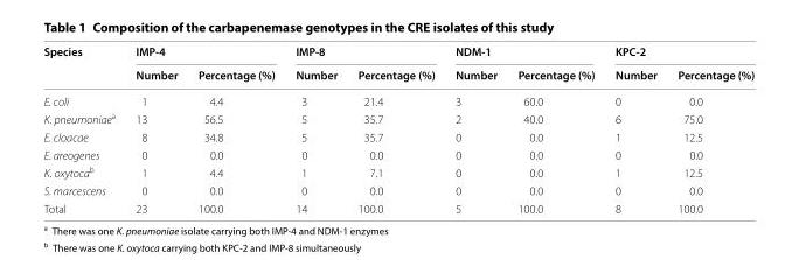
<table><thead><tr><td rowspan="2">Species</td><td colspan="2">IMP-4</td><td colspan="2">IMP-8</td><td colspan="2">NDM-1</td><td colspan="2">KPC-2</td></tr><tr><td>Number</td><td>Percentage (%)</td><td>Number</td><td>Percentage (%)</td><td>Number</td><td>Percentage (%)</td><td>Number</td><td>Percentage (%)</td></tr></thead><tbody><tr><td>E. coli</td><td>1</td><td>4.4</td><td>3</td><td>21.4</td><td>3</td><td>60.0</td><td>0</td><td>0.0</td></tr><tr><td>K. pneumoniae<sup>a</sup></td><td>13</td><td>56.5</td><td>5</td><td>35.7</td><td>2</td><td>40.0</td><td>6</td><td>75.0</td></tr><tr><td>E. cloacae</td><td>8</td><td>34.8</td><td>5</td><td>35.7</td><td>0</td><td>0.0</td><td>1</td><td>12.5</td></tr><tr><td>E. areogenes</td><td>0</td><td>0.0</td><td>0</td><td>0.0</td><td>0</td><td>0.0</td><td>0</td><td>0.0</td></tr><tr><td>K. oxytoca<sup>b</sup></td><td>1</td><td>4.4</td><td>1</td><td>7.1</td><td>0</td><td>0.0</td><td>1</td><td>12.5</td></tr><tr><td>S. marcescens</td><td>0</td><td>0.0</td><td>0</td><td>0.0</td><td>0</td><td>0.0</td><td>0</td><td>0.0</td></tr><tr><td>Total</td><td>23</td><td>100.0</td><td>14</td><td>100.0</td><td>5</td><td>100.0</td><td>8</td><td>100.0</td></tr></tbody></table>